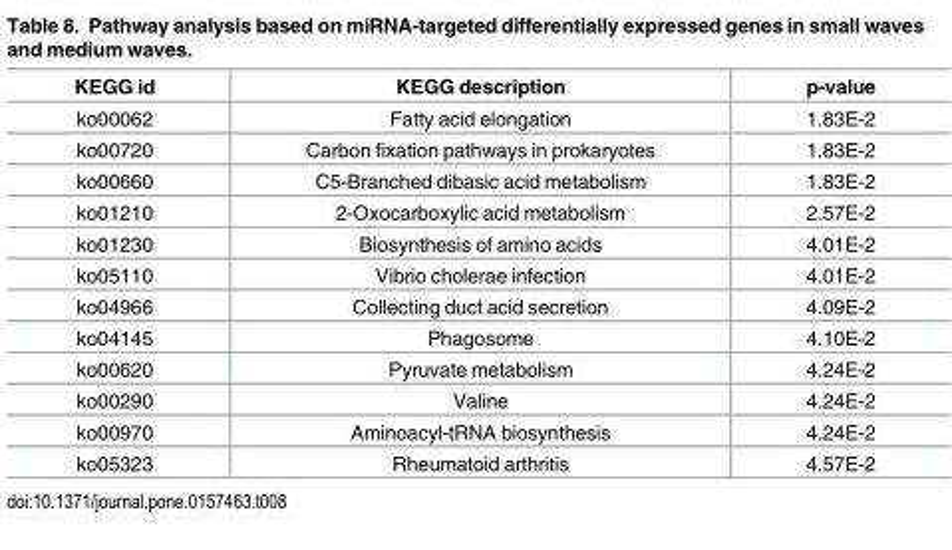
<table><thead><tr><td>KEGG id</td><td>KEGG description</td><td>p-value</td></tr></thead><tbody><tr><td>ko00062</td><td>Fatty acid elongation</td><td>1.83E-2</td></tr><tr><td>ko00720</td><td>Carbon fixation pathways in prokaryotes</td><td>1.83E-2</td></tr><tr><td>ko00660</td><td>C5-Branched dibasic acid metabolism</td><td>1.83E-2</td></tr><tr><td>ko01210</td><td>2-Oxocarboxylic acid metabolism</td><td>2.57E-2</td></tr><tr><td>ko01230</td><td>Biosynthesis of amino acids</td><td>4.01E-2</td></tr><tr><td>ko05110</td><td>Vibrio cholerae infection</td><td>4.01E-2</td></tr><tr><td>ko04966</td><td>Collecting duct acid secretion</td><td>4.09E-2</td></tr><tr><td>ko04145</td><td>Phagosome</td><td>4.10E-2</td></tr><tr><td>ko00620</td><td>Pyruvate metabolism</td><td>4.24E-2</td></tr><tr><td>ko00290</td><td>Valine</td><td>4.24E-2</td></tr><tr><td>ko00970</td><td>Aminoacyl-tRNA biosynthesis</td><td>4.24E-2</td></tr><tr><td>ko05323</td><td>Rheumatoid arthritis</td><td>4.57E-2</td></tr></tbody></table>